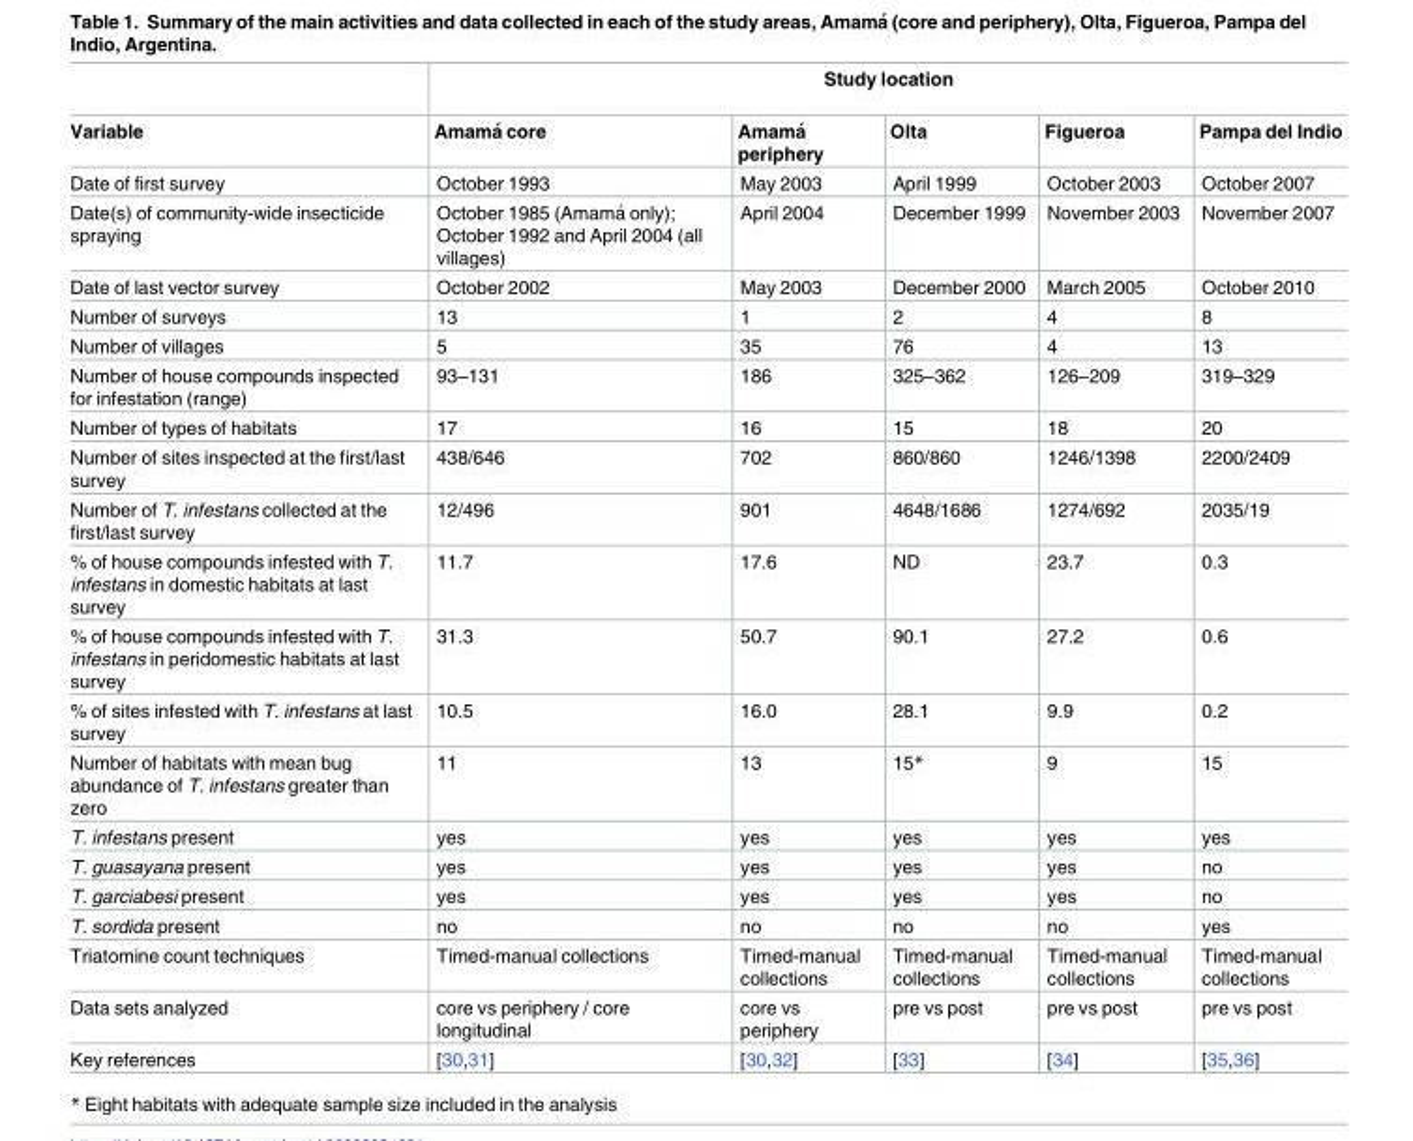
<table><thead><tr><td rowspan="2">Variable</td><td colspan="5">Study location</td></tr><tr><td>Amama´ core</td><td>Amama´ periphery</td><td>Olta</td><td>Figueroa</td><td>Pampa del Indio</td></tr></thead><tbody><tr><td>Date of first survey</td><td>October 1993</td><td>May 2003</td><td>April 1999</td><td>October 2003</td><td>October 2007</td></tr><tr><td>Date(s) of community-wide insecticide spraying</td><td>October 1985 (Amama´ only); October 1992 and April 2004 (all villages)</td><td>April 2004</td><td>December 1999</td><td>November 2003</td><td>November 2007</td></tr><tr><td>Date of last vector survey</td><td>October 2002</td><td>May 2003</td><td>December 2000</td><td>March 2005</td><td>October 2010</td></tr><tr><td>Number of surveys</td><td>13</td><td>1</td><td>2</td><td>4</td><td>8</td></tr><tr><td>Number of villages</td><td>5</td><td>35</td><td>76</td><td>4</td><td>13</td></tr><tr><td>Number of house compounds inspected for infestation (range)</td><td>93–131</td><td>186</td><td>325–362</td><td>126–209</td><td>319–329</td></tr><tr><td>Number of types of habitats</td><td>17</td><td>16</td><td>15</td><td>18</td><td>20</td></tr><tr><td>Number of sites inspected at the first/last survey</td><td>438/646</td><td>702</td><td>860/860</td><td>1246/1398</td><td>2200/2409</td></tr><tr><td>Number of T. infestans collected at the first/last survey</td><td>12/496</td><td>901</td><td>4648/1686</td><td>1274/692</td><td>2035/19</td></tr><tr><td>% of house compounds infested with T. infestans in domestic habitats at last survey</td><td>11.7</td><td>17.6</td><td>ND</td><td>23.7</td><td>0.3</td></tr><tr><td>% of house compounds infested with T. infestans in peridomestic habitats at last survey</td><td>31.3</td><td>50.7</td><td>90.1</td><td>27.2</td><td>0.6</td></tr><tr><td>% of sites infested with T. infestans at last survey</td><td>10.5</td><td>16.0</td><td>28.1</td><td>9.9</td><td>0.2</td></tr><tr><td>Number of habitats with mean bug abundance of T. infestans greater than zero</td><td>11</td><td>13</td><td>15*</td><td>9</td><td>15</td></tr><tr><td>T. infestans present</td><td>yes</td><td>yes</td><td>yes</td><td>yes</td><td>yes</td></tr><tr><td>T. guasayana present</td><td>yes</td><td>yes</td><td>yes</td><td>yes</td><td>no</td></tr><tr><td>T. garciabesi present</td><td>yes</td><td>yes</td><td>yes</td><td>yes</td><td>no</td></tr><tr><td>T. sordida present</td><td>no</td><td>no</td><td>no</td><td>no</td><td>yes</td></tr><tr><td>Triatomine count techniques</td><td>Timed-manual collections</td><td>Timed-manual collections</td><td>Timed-manual collections</td><td>Timed-manual collections</td><td>Timed-manual collections</td></tr><tr><td>Data sets analyzed</td><td>core vs periphery / core longitudinal</td><td>core vs periphery</td><td>pre vs post</td><td>pre vs post</td><td>pre vs post</td></tr><tr><td>Key references</td><td>[30,31]</td><td>[30,32]</td><td>[33]</td><td>[34]</td><td>[35,36]</td></tr></tbody></table>